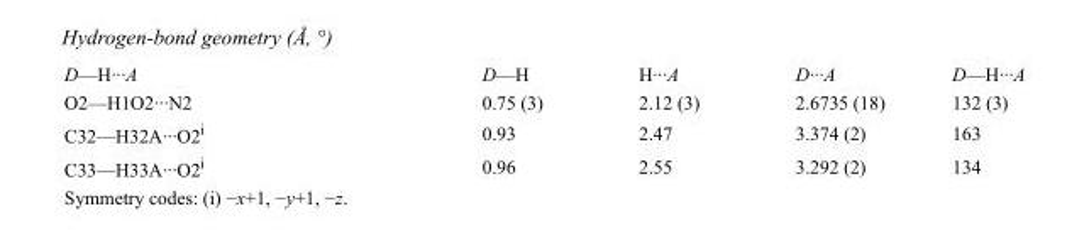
<table><tbody><tr><td>D—H···A</td><td>D—H</td><td>H···A</td><td>D···A</td><td>D—H···A</td></tr><tr><td>O2—H1O2···N2</td><td>0.75 (3)</td><td>2.12 (3)</td><td>2.6735 (18)</td><td>132 (3)</td></tr><tr><td>C32—H32A···O2<sup>i</sup></td><td>0.93</td><td>2.47</td><td>3.374 (2)</td><td>163</td></tr><tr><td>C33—H33A···O2<sup>i</sup></td><td>0.96</td><td>2.55</td><td>3.292 (2)</td><td>134</td></tr></tbody></table>